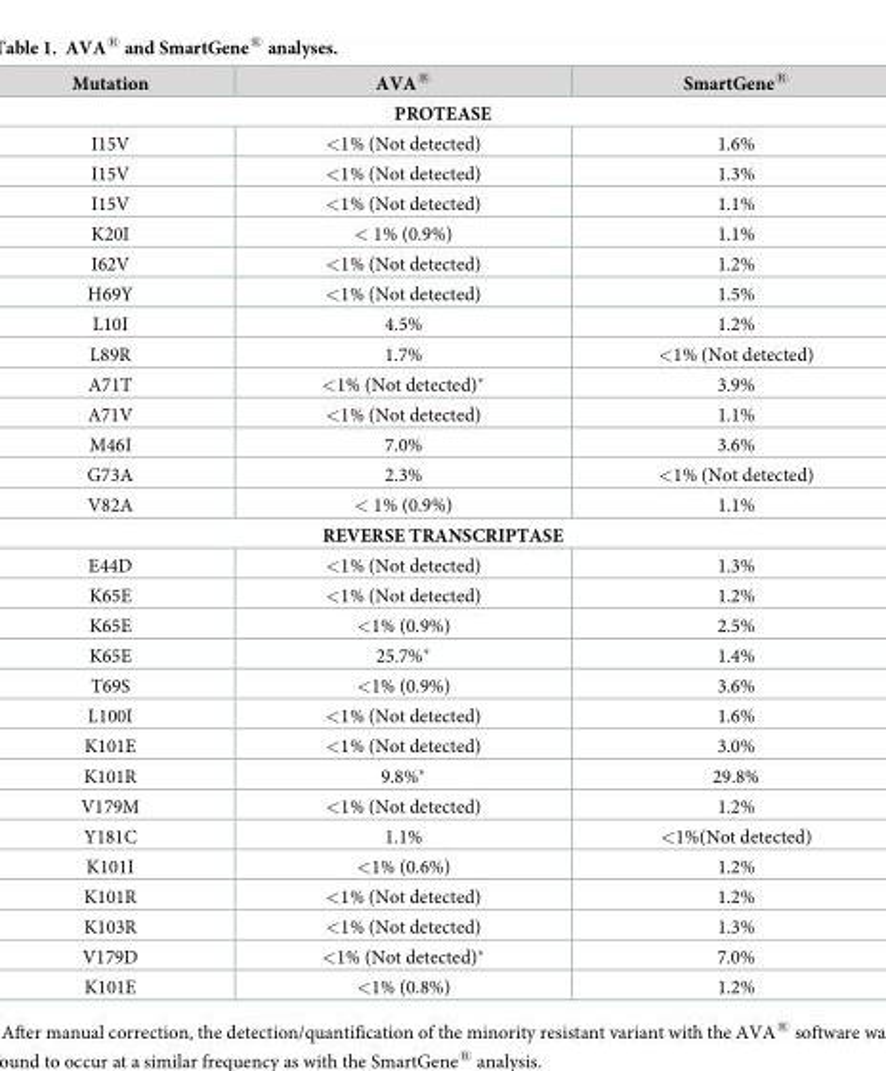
<table><thead><tr><td>Mutation</td><td>AVA<sup>®</sup></td><td>SmartGene<sup>®</sup></td></tr></thead><tbody><tr><td colspan="3">PROTEASE</td></tr><tr><td>I15V</td><td>&lt;1% (Not detected)</td><td>1.6%</td></tr><tr><td>I15V</td><td>&lt;1% (Not detected)</td><td>1.3%</td></tr><tr><td>I15V</td><td>&lt;1% (Not detected)</td><td>1.1%</td></tr><tr><td>K20I</td><td>&lt; 1% (0.9%)</td><td>1.1%</td></tr><tr><td>I62V</td><td>&lt;1% (Not detected)</td><td>1.2%</td></tr><tr><td>H69Y</td><td>&lt;1% (Not detected)</td><td>1.5%</td></tr><tr><td>L10I</td><td>4.5%</td><td>1.2%</td></tr><tr><td>L89R</td><td>1.7%</td><td>&lt;1% (Not detected)</td></tr><tr><td>A71T</td><td>&lt;1% (Not detected)*</td><td>3.9%</td></tr><tr><td>A71V</td><td>&lt;1% (Not detected)</td><td>1.1%</td></tr><tr><td>M46I</td><td>7.0%</td><td>3.6%</td></tr><tr><td>G73A</td><td>2.3%</td><td>&lt;1% (Not detected)</td></tr><tr><td>V82A</td><td>&lt; 1% (0.9%)</td><td>1.1%</td></tr><tr><td colspan="3">REVERSE TRANSCRIPTASE</td></tr><tr><td>E44D</td><td>&lt;1% (Not detected)</td><td>1.3%</td></tr><tr><td>K65E</td><td>&lt;1% (Not detected)</td><td>1.2%</td></tr><tr><td>K65E</td><td>&lt;1% (0.9%)</td><td>2.5%</td></tr><tr><td>K65E</td><td>25.7%*</td><td>1.4%</td></tr><tr><td>T69S</td><td>&lt;1% (0.9%)</td><td>3.6%</td></tr><tr><td>L100I</td><td>&lt;1% (Not detected)</td><td>1.6%</td></tr><tr><td>K101E</td><td>&lt;1% (Not detected)</td><td>3.0%</td></tr><tr><td>K101R</td><td>9.8%*</td><td>29.8%</td></tr><tr><td>V179M</td><td>&lt;1% (Not detected)</td><td>1.2%</td></tr><tr><td>Y181C</td><td>1.1%</td><td>&lt;1%(Not detected)</td></tr><tr><td>K101I</td><td>&lt;1% (0.6%)</td><td>1.2%</td></tr><tr><td>K101R</td><td>&lt;1% (Not detected)</td><td>1.2%</td></tr><tr><td>K103R</td><td>&lt;1% (Not detected)</td><td>1.3%</td></tr><tr><td>V179D</td><td>&lt;1% (Not detected)*</td><td>7.0%</td></tr><tr><td>K101E</td><td>&lt;1% (0.8%)</td><td>1.2%</td></tr></tbody></table>